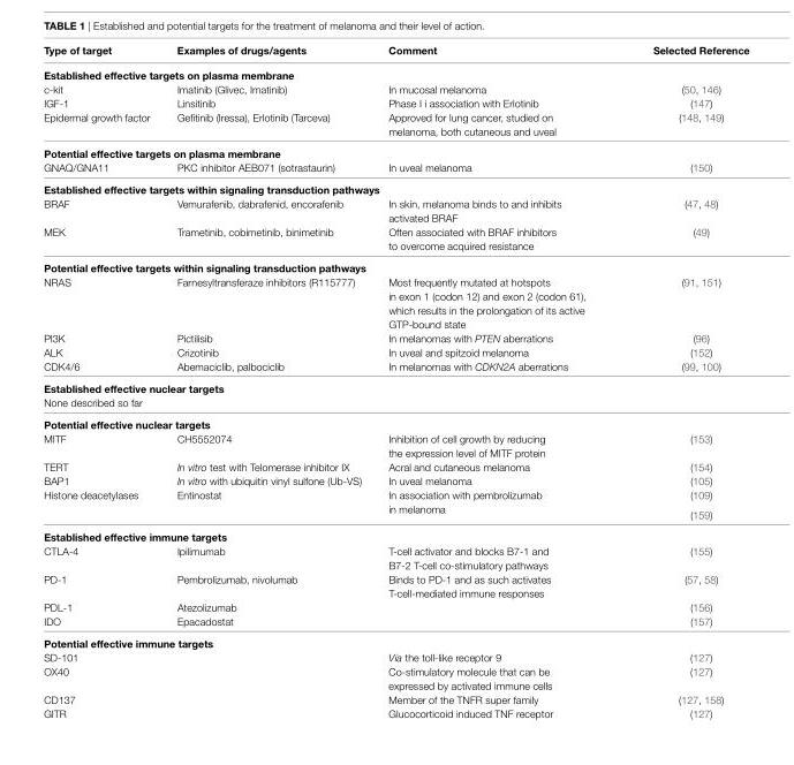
<table><thead><tr><td>Type of target</td><td>examples of drugs/agents</td><td>Comment</td><td>Selected Reference</td></tr></thead><tbody><tr><td colspan="4">established effective targets on plasma membrane</td></tr><tr><td>c-kit</td><td>Imatinib (Glivec, Imatinib)</td><td>In mucosal melanoma</td><td>(50, 146)</td></tr><tr><td>IGF-1</td><td>Linsitinib</td><td>Phase I i association with Erlotinib</td><td>(147)</td></tr><tr><td>Epidermal growth factor</td><td>Gefitinib (Iressa), Erlotinib (Tarceva)</td><td>Approved for lung cancer, studied on melanoma, both cutaneous and uveal</td><td>(148, 149)</td></tr><tr><td colspan="4">Potential effective targets on plasma membrane</td></tr><tr><td>GNAQ/GNA11</td><td>PKC inhibitor AEB071 (sotrastaurin)</td><td>In uveal melanoma</td><td>(150)</td></tr><tr><td colspan="4">established effective targets within signaling transduction pathways</td></tr><tr><td>BRAF</td><td>Vemurafenib, dabrafenid, encorafenib</td><td>In skin, melanoma binds to and inhibits activated BRAF</td><td>(47, 48)</td></tr><tr><td>MEK</td><td>Trametinib, cobimetinib, binimetinib</td><td>Often associated with BRAF inhibitors to overcome acquired resistance</td><td>(49)</td></tr><tr><td colspan="4">Potential effective targets within signaling transduction pathways</td></tr><tr><td>NRAS</td><td>Farnesyltransferaze inhibitors (R115777)</td><td>Most frequently mutated at hotspots in exon 1 (codon 12) and exon 2 (codon 61), which results in the prolongation of its active GTP-bound state</td><td>(91, 151)</td></tr><tr><td>PI3K</td><td>Pictilisib</td><td>In melanomas with PTEN aberrations</td><td>(96)</td></tr><tr><td>ALK</td><td>Crizotinib</td><td>In uveal and spitzoid melanoma</td><td>(152)</td></tr><tr><td>CDK4/6</td><td>Abemaciclib, palbociclib</td><td>In melanomas with CDKN2A aberrations</td><td>(99, 100)</td></tr><tr><td colspan="4">established effective nuclear targets</td></tr><tr><td colspan="4">None described so far</td></tr><tr><td colspan="4">Potential effective nuclear targets</td></tr><tr><td>MITF</td><td>CH5552074</td><td>Inhibition of cell growth by reducing the expression level of MITF protein</td><td>(153)</td></tr><tr><td>TERT</td><td>In vitro test with Telomerase inhibitor IX</td><td>Acral and cutaneous melanoma</td><td>(154)</td></tr><tr><td>BAP1</td><td>In vitro with ubiquitin vinyl sulfone (Ub-VS)</td><td>In uveal melanoma</td><td>(105)</td></tr><tr><td rowspan="2">Histone deacetylases</td><td rowspan="2">Entinostat</td><td rowspan="2">In association with pembrolizumab in melanoma</td><td>(109)</td></tr><tr><td>(159)</td></tr><tr><td colspan="4">established effective immune targets</td></tr><tr><td>CTLA-4</td><td>Ipilimumab</td><td>T-cell activator and blocks B7-1 and B7-2 T-cell co-stimulatory pathways</td><td>(155)</td></tr><tr><td>PD-1</td><td>Pembrolizumab, nivolumab</td><td>Binds to PD-1 and as such activates T-cell-mediated immune responses</td><td>(57, 58)</td></tr><tr><td>PDL-1</td><td>Atezolizumab</td><td></td><td>(156)</td></tr><tr><td>IDO</td><td>Epacadostat</td><td></td><td>(157)</td></tr><tr><td colspan="4">Potential effective immune targets</td></tr><tr><td>SD-101</td><td></td><td>Via the toll-like receptor 9</td><td>(127)</td></tr><tr><td>OX40</td><td></td><td>Co-stimulatory molecule that can be expressed by activated immune cells</td><td>(127)</td></tr><tr><td>CD137</td><td></td><td>Member of the TNFR super family</td><td>(127, 158)</td></tr><tr><td>GITR</td><td></td><td>Glucocorticoid induced TNF receptor</td><td>(127)</td></tr></tbody></table>